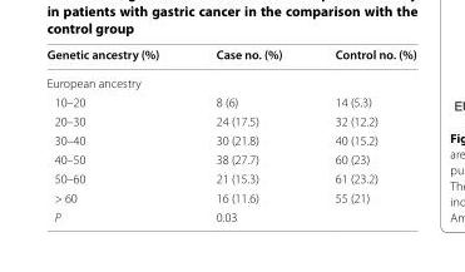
<table><thead><tr><td>Genetic ancestry (%)</td><td>Case no. (%)</td><td>Control no. (%)</td></tr></thead><tbody><tr><td colspan="3">European ancestry</td></tr><tr><td>10–20</td><td>8 (6)</td><td>14 (5.3)</td></tr><tr><td>20–30</td><td>24 (17.5)</td><td>32 (12.2)</td></tr><tr><td>30–40</td><td>30 (21.8)</td><td>40 (15.2)</td></tr><tr><td>40–50</td><td>38 (27.7)</td><td>60 (23)</td></tr><tr><td>50–60</td><td>21 (15.3)</td><td>61 (23.2)</td></tr><tr><td>&gt; 60</td><td>16 (11.6)</td><td>55 (21)</td></tr><tr><td>P</td><td colspan="2">0.03</td></tr></tbody></table>